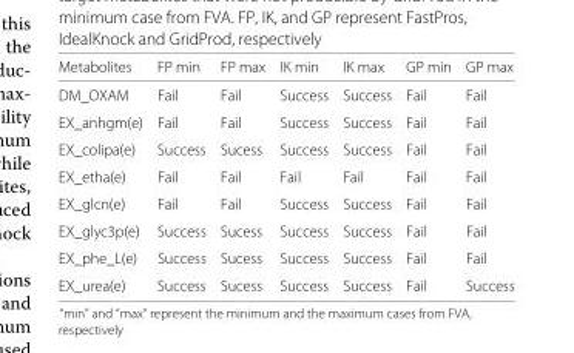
<table><thead><tr><td>Metabolites</td><td>FP min</td><td>FP max</td><td>IK min</td><td>IK max</td><td>GP min</td><td>GP max</td></tr></thead><tbody><tr><td>DM_OXAM</td><td>Fail</td><td>Fail</td><td>Success</td><td>Success</td><td>Fail</td><td>Fail</td></tr><tr><td>EX_anhgm(e)</td><td>Fail</td><td>Fail</td><td>Success</td><td>Success</td><td>Fail</td><td>Fail</td></tr><tr><td>EX_colipa(e)</td><td>Success</td><td>Sucess</td><td>Success</td><td>Success</td><td>Fail</td><td>Fail</td></tr><tr><td>EX_etha(e)</td><td>Fail</td><td>Fail</td><td>Fail</td><td>Fail</td><td>Fail</td><td>Fail</td></tr><tr><td>EX_glcn(e)</td><td>Fail</td><td>Fail</td><td>Success</td><td>Success</td><td>Fail</td><td>Fail</td></tr><tr><td>EX_glyc3p(e)</td><td>Success</td><td>Sucess</td><td>Success</td><td>Success</td><td>Fail</td><td>Fail</td></tr><tr><td>EX_phe_L(e)</td><td>Success</td><td>Sucess</td><td>Success</td><td>Success</td><td>Fail</td><td>Fail</td></tr><tr><td>EX_urea(e)</td><td>Success</td><td>Sucess</td><td>Success</td><td>Success</td><td>Fail</td><td>Success</td></tr></tbody></table>